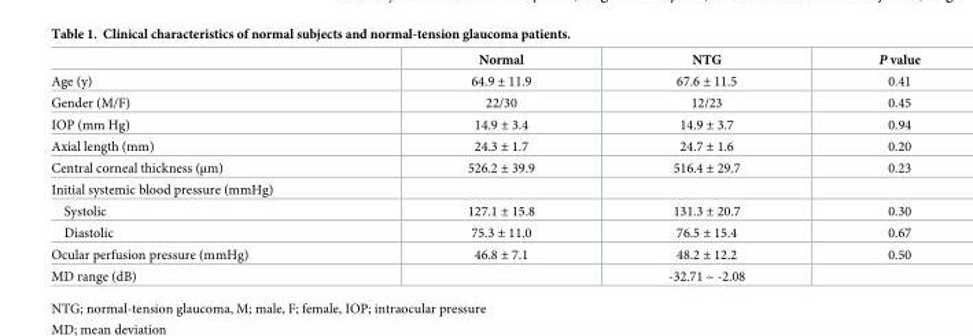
<table><thead><tr><td></td><td>Normal</td><td>NTG</td><td>P value</td></tr></thead><tbody><tr><td>Age (y)</td><td>64.9 ± 11.9</td><td>67.6 ± 11.5</td><td>0.41</td></tr><tr><td>Gender (M/F)</td><td>22/30</td><td>12/23</td><td>0.45</td></tr><tr><td>IOP (mm Hg)</td><td>14.9 ± 3.4</td><td>14.9 ± 3.7</td><td>0.94</td></tr><tr><td>Axial length (mm)</td><td>24.3 ± 1.7</td><td>24.7 ± 1.6</td><td>0.20</td></tr><tr><td>Central corneal thickness (μm)</td><td>526.2 ± 39.9</td><td>516.4 ± 29.7</td><td>0.23</td></tr><tr><td colspan="4">Initial systemic blood pressure (mmHg)</td></tr><tr><td>Systolic</td><td>127.1 ± 15.8</td><td>131.3 ± 20.7</td><td>0.30</td></tr><tr><td>Diastolic</td><td>75.3 ± 11.0</td><td>76.5 ± 15.4</td><td>0.67</td></tr><tr><td>Ocular perfusion pressure (mmHg)</td><td>46.8 ± 7.1</td><td>48.2 ± 12.2</td><td>0.50</td></tr><tr><td>MD range (dB)</td><td></td><td>-32.71 ~ -2.08</td><td></td></tr></tbody></table>